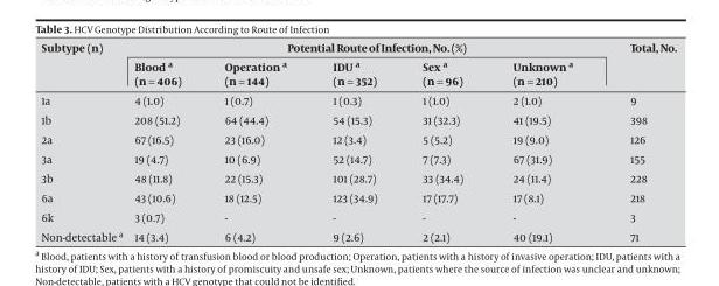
<table><thead><tr><td rowspan="2">Subtype (n)</td><td colspan="5">Potential Route of Infection, No. (%)</td><td rowspan="2">Total, No.</td></tr><tr><td>Blood a (n = 406)</td><td>Operation a (n = 144)</td><td>IDU a (n = 352)</td><td>Sex a (n = 96)</td><td>Unknown a (n = 210)</td></tr></thead><tbody><tr><td>1a</td><td>4 (1.0)</td><td>1 (0.7)</td><td>1 (0.3)</td><td>1 (1.0)</td><td>2 (1.0)</td><td>9</td></tr><tr><td>1b</td><td>208 (51.2)</td><td>64 (44.4)</td><td>54 (15.3)</td><td>31 (32.3)</td><td>41 (19.5)</td><td>398</td></tr><tr><td>2a</td><td>67 (16.5)</td><td>23 (16.0)</td><td>12 (3.4)</td><td>5 (5.2)</td><td>19 (9.0)</td><td>126</td></tr><tr><td>3a</td><td>19 (4.7)</td><td>10 (6.9)</td><td>52 (14.7)</td><td>7 (7.3)</td><td>67 (31.9)</td><td>155</td></tr><tr><td>3b</td><td>48 (11.8)</td><td>22 (15.3)</td><td>101 (28.7)</td><td>33 (34.4)</td><td>24 (11.4)</td><td>228</td></tr><tr><td>6a</td><td>43 (10.6)</td><td>18 (12.5)</td><td>123 (34.9)</td><td>17 (17.7)</td><td>17 (8.1)</td><td>218</td></tr><tr><td>6k</td><td>3 (0.7)</td><td>-</td><td>-</td><td>-</td><td>-</td><td>3</td></tr><tr><td>Non-detectable a</td><td>14 (3.4)</td><td>6 (4.2)</td><td>9 (2.6)</td><td>2 (2.1)</td><td>40 (19.1)</td><td>71</td></tr></tbody></table>